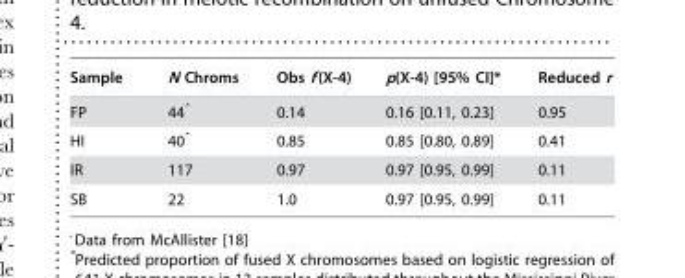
<table><thead><tr><td>Sample</td><td>N Chroms</td><td>Obs f (X-4)</td><td>p(X-4) [95% CI]*</td><td>Reduced r</td></tr></thead><tbody><tr><td>FP</td><td>44ˆ</td><td>0.14</td><td>0.16 [0.11, 0.23]</td><td>0.95</td></tr><tr><td>HI</td><td>40ˆ</td><td>0.85</td><td>0.85 [0.80, 0.89]</td><td>0.41</td></tr><tr><td>IR</td><td>117</td><td>0.97</td><td>0.97 [0.95, 0.99]</td><td>0.11</td></tr><tr><td>SB</td><td>22</td><td>1.0</td><td>0.97 [0.95, 0.99]</td><td>0.11</td></tr></tbody></table>